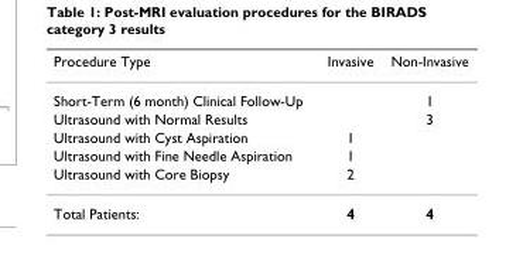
<table><thead><tr><td>Procedure Type</td><td>Invasive</td><td>Non-Invasive</td></tr></thead><tbody><tr><td>Short-Term (6 month) Clinical Follow-Up</td><td></td><td>1</td></tr><tr><td>Ultrasound with Normal Results</td><td></td><td>3</td></tr><tr><td>Ultrasound with Cyst Aspiration</td><td>1</td><td></td></tr><tr><td>Ultrasound with Fine Needle Aspiration</td><td>1</td><td></td></tr><tr><td>Ultrasound with Core Biopsy</td><td>2</td><td></td></tr><tr><td>Total Patients:</td><td>4</td><td>4</td></tr></tbody></table>